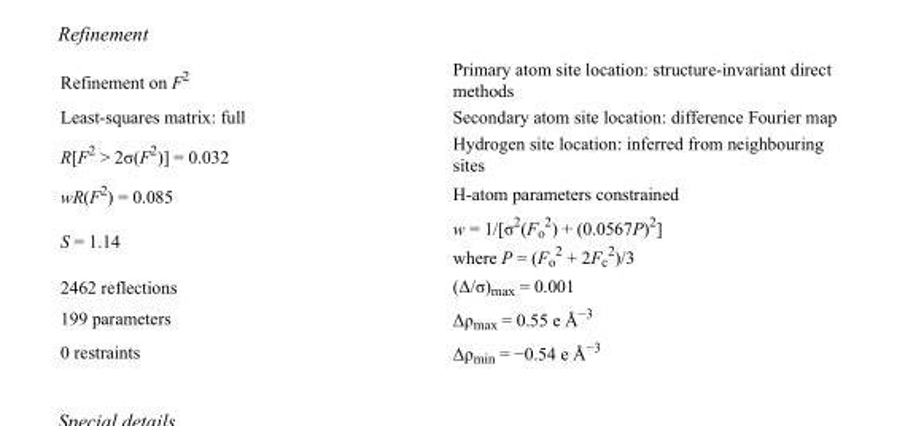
<table><tbody><tr><td>Refinement on F<sup>2</sup></td><td>Primary atom site location: structure-invariant direct methods</td></tr><tr><td>Least-squares matrix: full</td><td>Secondary atom site location: difference Fourier map</td></tr><tr><td>R[F<sup>2</sup> &gt; 2σ(F<sup>2</sup>)] = 0.032</td><td>Hydrogen site location: inferred from neighbouring sites</td></tr><tr><td>wR(F<sup>2</sup>) = 0.085</td><td>H-atom parameters constrained</td></tr><tr><td>S = 1.14</td><td>w = 1/[σ<sup>2</sup>(F<sub>o</sub> <sup>2</sup>) + (0.0567P)<sup>2</sup>] where P = (F<sub>o</sub> <sup>2</sup> + 2F<sub>c</sub> <sup>2</sup>)/3</td></tr><tr><td>2462 reflections</td><td>(Δ/σ)<sub>max</sub> = 0.001</td></tr><tr><td>199 parameters</td><td>Δρ<sub>max</sub> = 0.55 e Å<sup>−3</sup></td></tr><tr><td>0 restraints</td><td>Δρ<sub>min</sub> = −0.54 e Å<sup>−3</sup></td></tr></tbody></table>